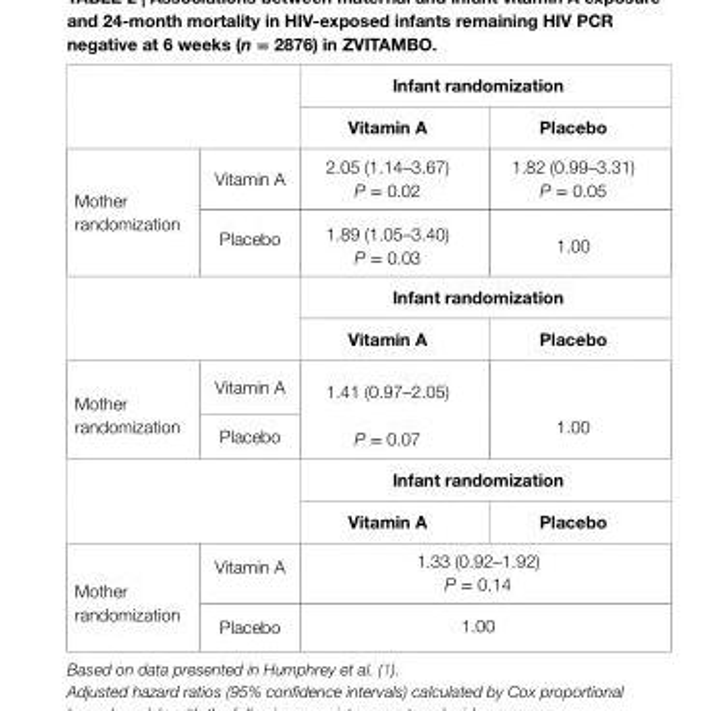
<table><thead><tr><td rowspan="2"></td><td rowspan="2"></td><td colspan="2">infant randomization</td></tr><tr><td>Vitamin a</td><td>placebo</td></tr></thead><tbody><tr><td rowspan="2">Mother randomization</td><td>Vitamin A</td><td>2.05 (1.14–3.67) P = 0.02</td><td>1.82 (0.99–3.31) P = 0.05</td></tr><tr><td>Placebo</td><td>1.89 (1.05–3.40) P = 0.03</td><td>1.00</td></tr><tr><td rowspan="2" colspan="2"></td><td colspan="2">infant randomization</td></tr><tr><td>Vitamin a</td><td>placebo</td></tr><tr><td rowspan="2">Mother randomization</td><td>Vitamin A</td><td rowspan="2">1.41 (0.97–2.05) P = 0.07</td><td rowspan="2">1.00</td></tr><tr><td>Placebo</td></tr><tr><td rowspan="2" colspan="2"></td><td colspan="2">infant randomization</td></tr><tr><td>Vitamin a</td><td>placebo</td></tr><tr><td rowspan="2">Mother randomization</td><td>Vitamin A</td><td colspan="2">1.33 (0.92–1.92) P = 0.14</td></tr><tr><td>Placebo</td><td colspan="2">1.00</td></tr></tbody></table>